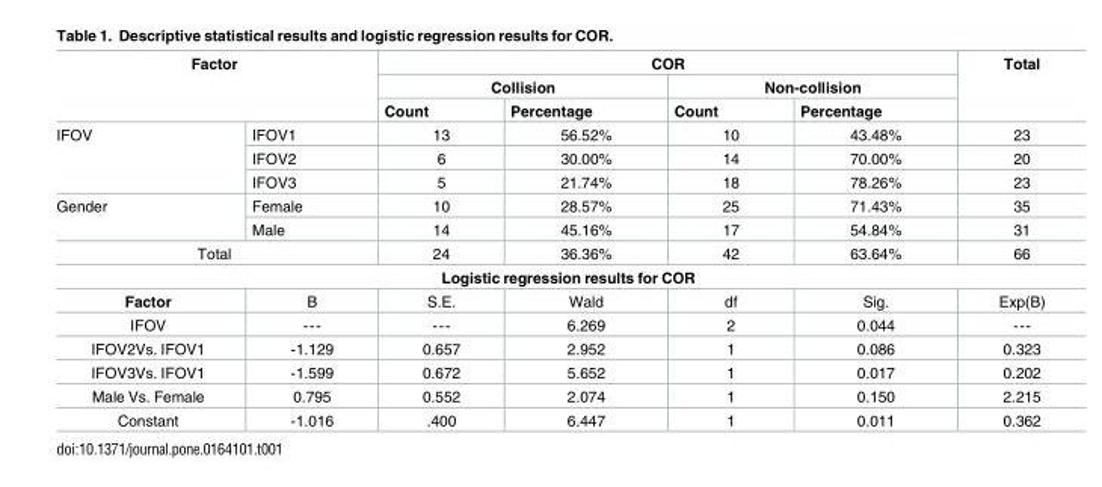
<table><tbody><tr><td rowspan="3" colspan="2">Factor</td><td colspan="4">COR</td><td rowspan="3">Total</td></tr><tr><td colspan="2">Collision</td><td colspan="2">Non-collision</td></tr><tr><td>Count</td><td>Percentage</td><td>Count</td><td>Percentage</td></tr><tr><td rowspan="3">IFOV</td><td>IFOV1</td><td>13</td><td>56.52%</td><td>10</td><td>43.48%</td><td>23</td></tr><tr><td>IFOV2</td><td>6</td><td>30.00%</td><td>14</td><td>70.00%</td><td>20</td></tr><tr><td>IFOV3</td><td>5</td><td>21.74%</td><td>18</td><td>78.26%</td><td>23</td></tr><tr><td rowspan="2">Gender</td><td>Female</td><td>10</td><td>28.57%</td><td>25</td><td>71.43%</td><td>35</td></tr><tr><td>Male</td><td>14</td><td>45.16%</td><td>17</td><td>54.84%</td><td>31</td></tr><tr><td colspan="2">Total</td><td>24</td><td>36.36%</td><td>42</td><td>63.64%</td><td>66</td></tr><tr><td colspan="7">Logistic regression results for COR</td></tr><tr><td>Factor</td><td>B</td><td>S.E.</td><td>Wald</td><td>df</td><td>Sig.</td><td>Exp(B)</td></tr><tr><td>IFOV</td><td>---</td><td>---</td><td>6.269</td><td>2</td><td>0.044</td><td>---</td></tr><tr><td>IFOV2Vs. IFOV1</td><td>-1.129</td><td>0.657</td><td>2.952</td><td>1</td><td>0.086</td><td>0.323</td></tr><tr><td>IFOV3Vs. IFOV1</td><td>-1.599</td><td>0.672</td><td>5.652</td><td>1</td><td>0.017</td><td>0.202</td></tr><tr><td>Male Vs. Female</td><td>0.795</td><td>0.552</td><td>2.074</td><td>1</td><td>0.150</td><td>2.215</td></tr><tr><td>Constant</td><td>-1.016</td><td>.400</td><td>6.447</td><td>1</td><td>0.011</td><td>0.362</td></tr></tbody></table>